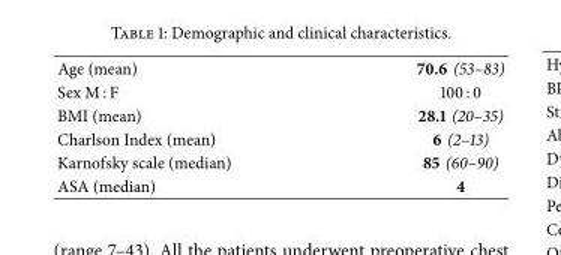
<table><tbody><tr><td>Age (mean)</td><td>70.6 (53–83)</td></tr><tr><td>Sex M : F</td><td>100 : 0</td></tr><tr><td>BMI (mean)</td><td>28.1 (20–35)</td></tr><tr><td>Charlson Index (mean)</td><td>6 (2–13)</td></tr><tr><td>Karnofsky scale (median)</td><td>85 (60–90)</td></tr><tr><td>ASA (median)</td><td>4</td></tr></tbody></table>